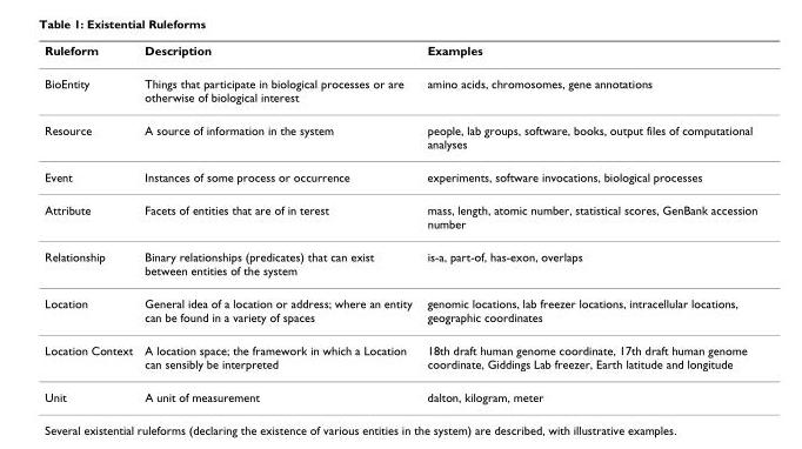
<table><thead><tr><td>Ruleform</td><td>Description</td><td>Examples</td></tr></thead><tbody><tr><td>BioEntity</td><td>Things that participate in biological processes or are otherwise of biological interest</td><td>amino acids, chromosomes, gene annotations</td></tr><tr><td>Resource</td><td>A source of information in the system</td><td>people, lab groups, software, books, output files of computational analyses</td></tr><tr><td>Event</td><td>Instances of some process or occurrence</td><td>experiments, software invocations, biological processes</td></tr><tr><td>Attribute</td><td>Facets of entities that are of in terest</td><td>mass, length, atomic number, statistical scores, GenBank accession number</td></tr><tr><td>Relationship</td><td>Binary relationships (predicates) that can exist between entities of the system</td><td>is-a, part-of, has-exon, overlaps</td></tr><tr><td>Location</td><td>General idea of a location or address; where an entity can be found in a variety of spaces</td><td>genomic locations, lab freezer locations, intracellular locations, geographic coordinates</td></tr><tr><td>Location Context</td><td>A location space; the framework in which a Location can sensibly be interpreted</td><td>18th draft human genome coordinate, 17th draft human genome coordinate, Giddings Lab freezer, Earth latitude and longitude</td></tr><tr><td>Unit</td><td>A unit of measurement</td><td>dalton, kilogram, meter</td></tr></tbody></table>